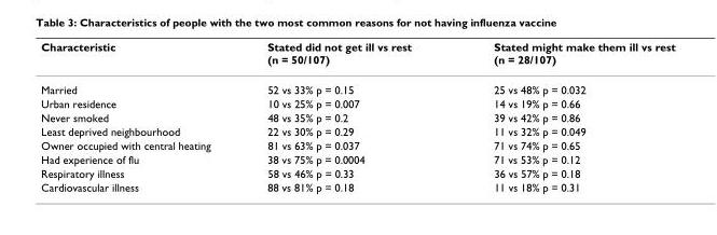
<table><thead><tr><td>Characteristic</td><td>Stated did not get ill vs rest (n = 50/107)</td><td>Stated might make them ill vs rest (n = 28/107)</td></tr></thead><tbody><tr><td>Married</td><td>52 vs 33% p = 0.15</td><td>25 vs 48% p = 0.032</td></tr><tr><td>Urban residence</td><td>10 vs 25% p = 0.007</td><td>14 vs 19% p = 0.66</td></tr><tr><td>Never smoked</td><td>48 vs 35% p = 0.2</td><td>39 vs 42% p = 0.86</td></tr><tr><td>Least deprived neighbourhood</td><td>22 vs 30% p = 0.29</td><td>11 vs 32% p = 0.049</td></tr><tr><td>Owner occupied with central heating</td><td>81 vs 63% p = 0.037</td><td>71 vs 74% p = 0.65</td></tr><tr><td>Had experience of flu</td><td>38 vs 75% p = 0.0004</td><td>71 vs 53% p = 0.12</td></tr><tr><td>Respiratory illness</td><td>58 vs 46% p = 0.33</td><td>36 vs 57% p = 0.18</td></tr><tr><td>Cardiovascular illness</td><td>88 vs 81% p = 0.18</td><td>11 vs 18% p = 0.31</td></tr></tbody></table>